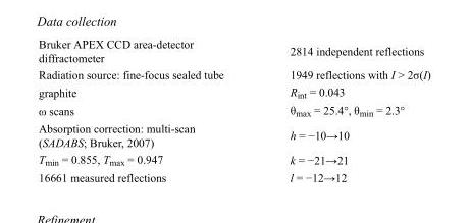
<table><tbody><tr><td>Bruker APEX CCD area-detector diffractometer</td><td>2814 independent reflections</td></tr><tr><td>Radiation source: fine-focus sealed tube</td><td>1949 reflections with I &gt; 2σ(I)</td></tr><tr><td>graphite</td><td>R<sub>int</sub> = 0.043</td></tr><tr><td>ω scans</td><td>θ<sub>max</sub> = 25.4°, θ<sub>min</sub> = 2.3°</td></tr><tr><td>Absorption correction: multi-scan (SADABS; Bruker, 2007)</td><td>h = −10→10</td></tr><tr><td>T<sub>min</sub> = 0.855, T<sub>max</sub> = 0.947</td><td>k = −21→21</td></tr><tr><td>16661 measured reflections</td><td>l = −12→12</td></tr></tbody></table>